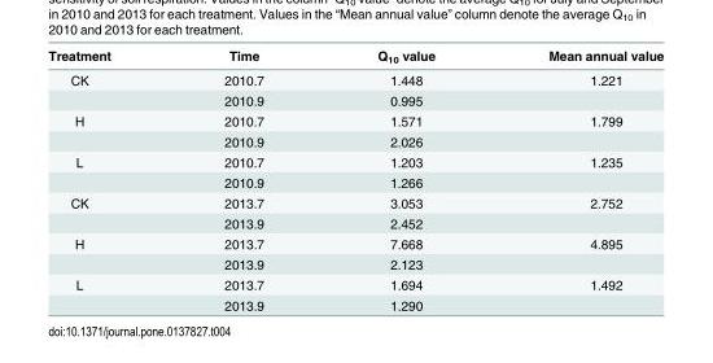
<table><thead><tr><td>Treatment</td><td>Time</td><td>Q<sub>10</sub> value</td><td>Mean annual value</td></tr></thead><tbody><tr><td rowspan="2">CK</td><td>2010.7</td><td>1.448</td><td>1.221</td></tr><tr><td>2010.9</td><td>0.995</td><td></td></tr><tr><td rowspan="2">H</td><td>2010.7</td><td>1.571</td><td>1.799</td></tr><tr><td>2010.9</td><td>2.026</td><td></td></tr><tr><td rowspan="2">L</td><td>2010.7</td><td>1.203</td><td>1.235</td></tr><tr><td>2010.9</td><td>1.266</td><td></td></tr><tr><td rowspan="2">CK</td><td>2013.7</td><td>3.053</td><td>2.752</td></tr><tr><td>2013.9</td><td>2.452</td><td></td></tr><tr><td rowspan="2">H</td><td>2013.7</td><td>7.668</td><td>4.895</td></tr><tr><td>2013.9</td><td>2.123</td><td></td></tr><tr><td rowspan="2">L</td><td>2013.7</td><td>1.694</td><td>1.492</td></tr><tr><td>2013.9</td><td>1.290</td><td></td></tr></tbody></table>